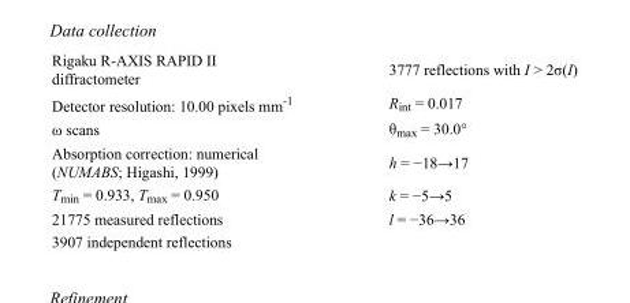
<table><tbody><tr><td>Rigaku R-AXIS RAPID II diffractometer</td><td>3777 reflections with I &gt; 2σ(I)</td></tr><tr><td>Detector resolution: 10.00 pixels mm<sup>-1</sup></td><td>R<sub>int</sub> = 0.017</td></tr><tr><td>ω scans</td><td>θ<sub>max</sub> = 30.0°</td></tr><tr><td>Absorption correction: numerical (NUMABS; Higashi, 1999)</td><td>h = −18→17</td></tr><tr><td>T<sub>min</sub> = 0.933, T<sub>max</sub> = 0.950</td><td>k = −5→5</td></tr><tr><td>21775 measured reflections</td><td>l = −36→36</td></tr><tr><td>3907 independent reflections</td><td></td></tr></tbody></table>